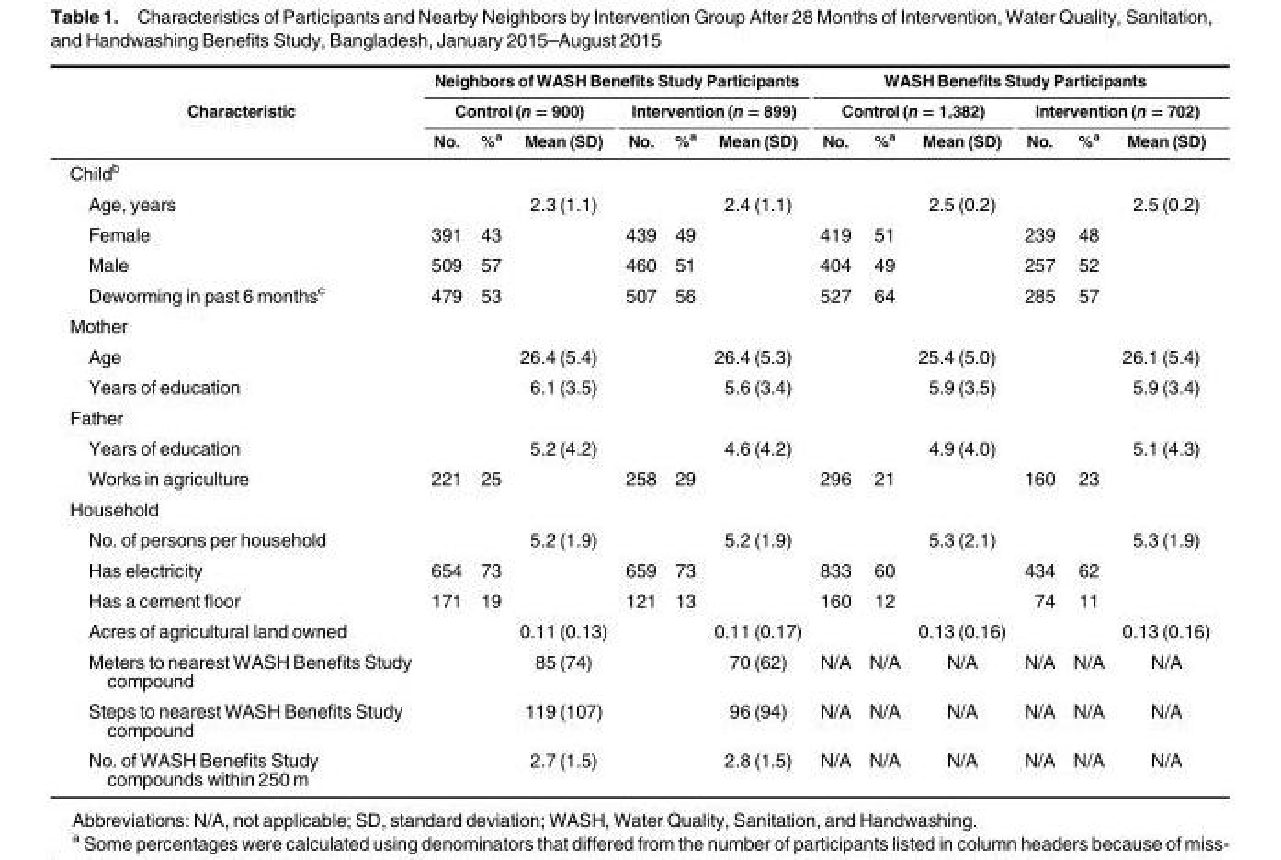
<table><thead><tr><td rowspan="3">Characteristic</td><td colspan="6">Neighbors of WASH Benefits Study Participants</td><td colspan="6">WASH Benefits Study Participants</td></tr><tr><td colspan="3">Control (n = 900)</td><td colspan="3">Intervention (n = 899)</td><td colspan="3">Control (n = 1,382)</td><td colspan="3">Intervention (n = 702)</td></tr><tr><td>No.</td><td>%<sup>a</sup></td><td>Mean (SD)</td><td>No.</td><td>%<sup>a</sup></td><td>Mean (SD)</td><td>No.</td><td>%<sup>a</sup></td><td>Mean (SD)</td><td>No.</td><td>%<sup>a</sup></td><td>Mean (SD)</td></tr></thead><tbody><tr><td colspan="13">Child<sup>b</sup></td></tr><tr><td>Age, years</td><td></td><td></td><td>2.3 (1.1)</td><td></td><td></td><td>2.4 (1.1)</td><td></td><td></td><td>2.5 (0.2)</td><td></td><td></td><td>2.5 (0.2)</td></tr><tr><td>Female</td><td>391</td><td>43</td><td></td><td>439</td><td>49</td><td></td><td>419</td><td>51</td><td></td><td>239</td><td>48</td><td></td></tr><tr><td>Male</td><td>509</td><td>57</td><td></td><td>460</td><td>51</td><td></td><td>404</td><td>49</td><td></td><td>257</td><td>52</td><td></td></tr><tr><td>Deworming in past 6 months<sup>c</sup></td><td>479</td><td>53</td><td></td><td>507</td><td>56</td><td></td><td>527</td><td>64</td><td></td><td>285</td><td>57</td><td></td></tr><tr><td colspan="13">Mother</td></tr><tr><td>Age</td><td></td><td></td><td>26.4 (5.4)</td><td></td><td></td><td>26.4 (5.3)</td><td></td><td></td><td>25.4 (5.0)</td><td></td><td></td><td>26.1 (5.4)</td></tr><tr><td>Years of education</td><td></td><td></td><td>6.1 (3.5)</td><td></td><td></td><td>5.6 (3.4)</td><td></td><td></td><td>5.9 (3.5)</td><td></td><td></td><td>5.9 (3.4)</td></tr><tr><td colspan="13">Father</td></tr><tr><td>Years of education</td><td></td><td></td><td>5.2 (4.2)</td><td></td><td></td><td>4.6 (4.2)</td><td></td><td></td><td>4.9 (4.0)</td><td></td><td></td><td>5.1 (4.3)</td></tr><tr><td>Works in agriculture</td><td>221</td><td>25</td><td></td><td>258</td><td>29</td><td></td><td>296</td><td>21</td><td></td><td>160</td><td>23</td><td></td></tr><tr><td colspan="13">Household</td></tr><tr><td>No. of persons per household</td><td></td><td></td><td>5.2 (1.9)</td><td></td><td></td><td>5.2 (1.9)</td><td></td><td></td><td>5.3 (2.1)</td><td></td><td></td><td>5.3 (1.9)</td></tr><tr><td>Has electricity</td><td>654</td><td>73</td><td></td><td>659</td><td>73</td><td></td><td>833</td><td>60</td><td></td><td>434</td><td>62</td><td></td></tr><tr><td>Has a cement floor</td><td>171</td><td>19</td><td></td><td>121</td><td>13</td><td></td><td>160</td><td>12</td><td></td><td>74</td><td>11</td><td></td></tr><tr><td>Acres of agricultural land owned</td><td></td><td></td><td>0.11 (0.13)</td><td></td><td></td><td>0.11 (0.17)</td><td></td><td></td><td>0.13 (0.16)</td><td></td><td></td><td>0.13 (0.16)</td></tr><tr><td>Meters to nearest WASH Benefits Study compound</td><td></td><td></td><td>85 (74)</td><td></td><td></td><td>70 (62)</td><td>N/A</td><td>N/A</td><td>N/A</td><td>N/A</td><td>N/A</td><td>N/A</td></tr><tr><td>Steps to nearest WASH Benefits Study compound</td><td></td><td></td><td>119 (107)</td><td></td><td></td><td>96 (94)</td><td>N/A</td><td>N/A</td><td>N/A</td><td>N/A</td><td>N/A</td><td>N/A</td></tr><tr><td>No. of WASH Benefits Study compounds within 250 m</td><td></td><td></td><td>2.7 (1.5)</td><td></td><td></td><td>2.8 (1.5)</td><td>N/A</td><td>N/A</td><td>N/A</td><td>N/A</td><td>N/A</td><td>N/A</td></tr></tbody></table>